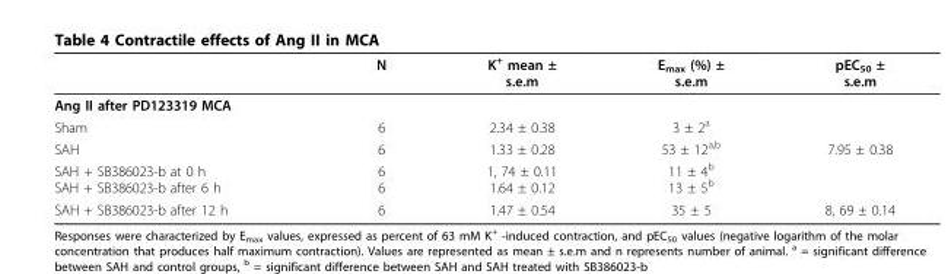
<table><thead><tr><td></td><td>N</td><td>K<sup>+</sup> mean ± s.e.m</td><td>E<sub>max</sub> (%) ± s.e.m</td><td>pEC<sub>50</sub> ± s.e.m</td></tr></thead><tbody><tr><td colspan="5">Ang II after PD123319 MCA</td></tr><tr><td>Sham</td><td>6</td><td>2.34 ± 0.38</td><td>3 ± 2<sup>a</sup></td><td></td></tr><tr><td>SAH</td><td>6</td><td>1.33 ± 0.28</td><td>53 ± 12<sup>a,b</sup></td><td>7.95 ± 0.38</td></tr><tr><td>SAH + SB386023-b at 0 h SAH + SB386023-b after 6 h</td><td>6 6</td><td>1, 74 ± 0.11 1.64 ± 0.12</td><td>11 ± 4<sup>b</sup> 13 ± 5<sup>b</sup></td><td></td></tr><tr><td>SAH + SB386023-b after 12 h</td><td>6</td><td>1.47 ± 0.54</td><td>35 ± 5</td><td>8, 69 ± 0.14</td></tr></tbody></table>